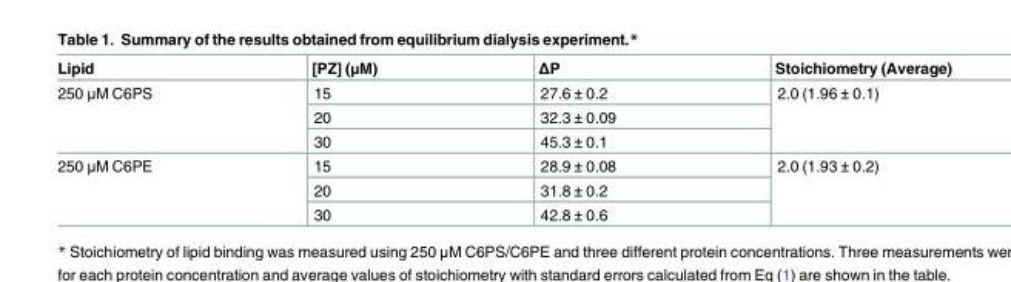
<table><thead><tr><td>Lipid</td><td>[PZ] (μM)</td><td>ΔP</td><td>Stoichiometry (Average)</td></tr></thead><tbody><tr><td rowspan="3">250 μM C6PS</td><td>15</td><td>27.6 ± 0.2</td><td rowspan="3">2.0 (1.96 ± 0.1)</td></tr><tr><td>20</td><td>32.3 ± 0.09</td></tr><tr><td>30</td><td>45.3 ± 0.1</td></tr><tr><td rowspan="3">250 μM C6PE</td><td>15</td><td>28.9 ± 0.08</td><td rowspan="3">2.0 (1.93 ± 0.2)</td></tr><tr><td>20</td><td>31.8 ± 0.2</td></tr><tr><td>30</td><td>42.8 ± 0.6</td></tr></tbody></table>